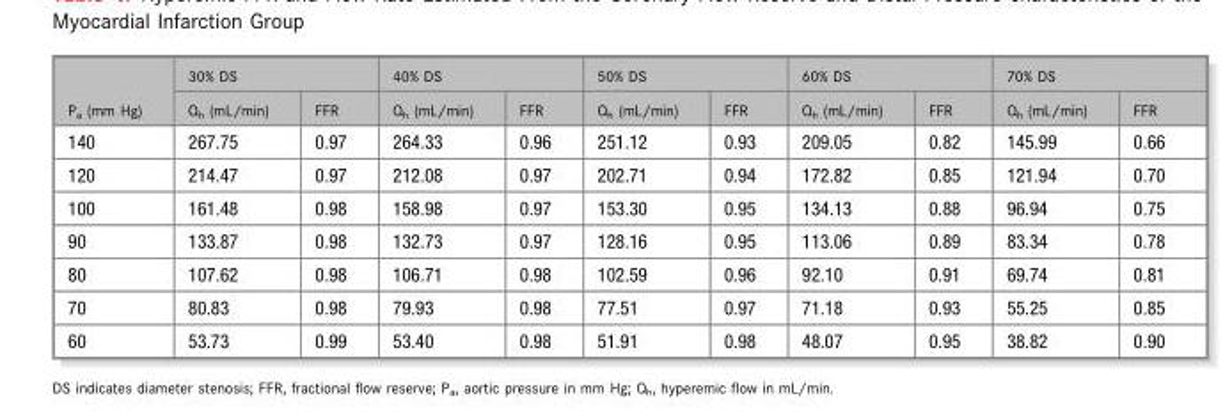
<table><thead><tr><td rowspan="2">P<sub>a</sub> (mm Hg)</td><td colspan="2">30% DS</td><td colspan="2">40% DS</td><td colspan="2">50% DS</td><td colspan="2">60% DS</td><td colspan="2">70% DS</td></tr><tr><td>Q<sub>h</sub> (mL/min)</td><td>FFR</td><td>Q<sub>h</sub> (mL/min)</td><td>FFR</td><td>Q<sub>h</sub> (mL/min)</td><td>FFR</td><td>Q<sub>h</sub> (mL/min)</td><td>FFR</td><td>Q<sub>h</sub> (mL/min)</td><td>FFR</td></tr></thead><tbody><tr><td>140</td><td>267.75</td><td>0.97</td><td>264.33</td><td>0.96</td><td>251.12</td><td>0.93</td><td>209.05</td><td>0.82</td><td>145.99</td><td>0.66</td></tr><tr><td>120</td><td>214.47</td><td>0.97</td><td>212.08</td><td>0.97</td><td>202.71</td><td>0.94</td><td>172.82</td><td>0.85</td><td>121.94</td><td>0.70</td></tr><tr><td>100</td><td>161.48</td><td>0.98</td><td>158.98</td><td>0.97</td><td>153.30</td><td>0.95</td><td>134.13</td><td>0.88</td><td>96.94</td><td>0.75</td></tr><tr><td>90</td><td>133.87</td><td>0.98</td><td>132.73</td><td>0.97</td><td>128.16</td><td>0.95</td><td>113.06</td><td>0.89</td><td>83.34</td><td>0.78</td></tr><tr><td>80</td><td>107.62</td><td>0.98</td><td>106.71</td><td>0.98</td><td>102.59</td><td>0.96</td><td>92.10</td><td>0.91</td><td>69.74</td><td>0.81</td></tr><tr><td>70</td><td>80.83</td><td>0.98</td><td>79.93</td><td>0.98</td><td>77.51</td><td>0.97</td><td>71.18</td><td>0.93</td><td>55.25</td><td>0.85</td></tr><tr><td>60</td><td>53.73</td><td>0.99</td><td>53.40</td><td>0.98</td><td>51.91</td><td>0.98</td><td>48.07</td><td>0.95</td><td>38.82</td><td>0.90</td></tr></tbody></table>